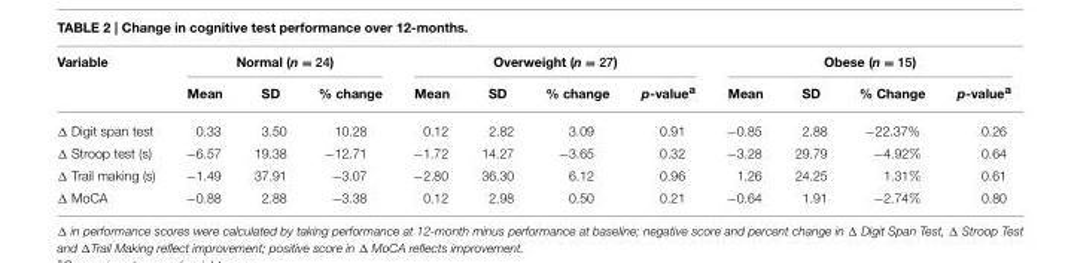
<table><thead><tr><td rowspan="2">Variable</td><td colspan="3">Normal (n = 24)</td><td colspan="4">Overweight (n = 27)</td><td colspan="4">Obese (n = 15)</td></tr><tr><td>Mean</td><td>SD</td><td>% change</td><td>Mean</td><td>SD</td><td>% change</td><td>p-value<sup>a</sup></td><td>Mean</td><td>SD</td><td>% Change</td><td>p-value<sup>a</sup></td></tr></thead><tbody><tr><td>Δ Digit span test</td><td>0.33</td><td>3.50</td><td>10.28</td><td>0.12</td><td>2.82</td><td>3.09</td><td>0.91</td><td>−0.85</td><td>2.88</td><td>−22.37%</td><td>0.26</td></tr><tr><td>Δ Stroop test (s)</td><td>−6.57</td><td>19.38</td><td>−12.71</td><td>−1.72</td><td>14.27</td><td>−3.65</td><td>0.32</td><td>−3.28</td><td>29.79</td><td>−4.92%</td><td>0.64</td></tr><tr><td>Δ Trail making (s)</td><td>−1.49</td><td>37.91</td><td>−3.07</td><td>−2.80</td><td>36.30</td><td>6.12</td><td>0.96</td><td>1.26</td><td>24.25</td><td>1.31%</td><td>0.61</td></tr><tr><td>Δ MoCA</td><td>−0.88</td><td>2.88</td><td>−3.38</td><td>0.12</td><td>2.98</td><td>0.50</td><td>0.21</td><td>−0.64</td><td>1.91</td><td>−2.74%</td><td>0.80</td></tr></tbody></table>